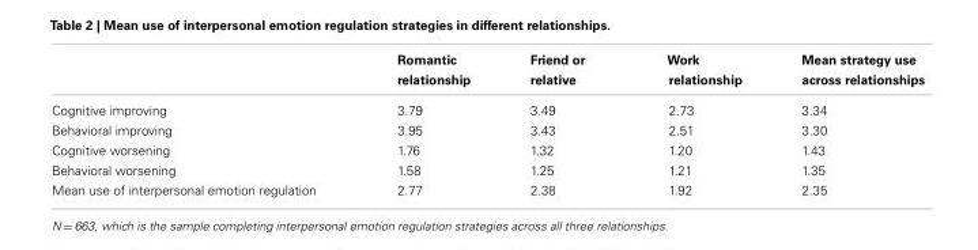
<table><thead><tr><td></td><td>Romantic relationship</td><td>Friend or relative</td><td>Work relationship</td><td>Mean strategy use across relationships</td></tr></thead><tbody><tr><td>Cognitive improving</td><td>3.79</td><td>3.49</td><td>2.73</td><td>3.34</td></tr><tr><td>Behavioral improving</td><td>3.95</td><td>3.43</td><td>2.51</td><td>3.30</td></tr><tr><td>Cognitive worsening</td><td>1.76</td><td>1.32</td><td>1.20</td><td>1.43</td></tr><tr><td>Behavioral worsening</td><td>1.58</td><td>1.25</td><td>1.21</td><td>1.35</td></tr><tr><td>Mean use of interpersonal emotion regulation</td><td>2.77</td><td>2.38</td><td>1.92</td><td>2.35</td></tr></tbody></table>